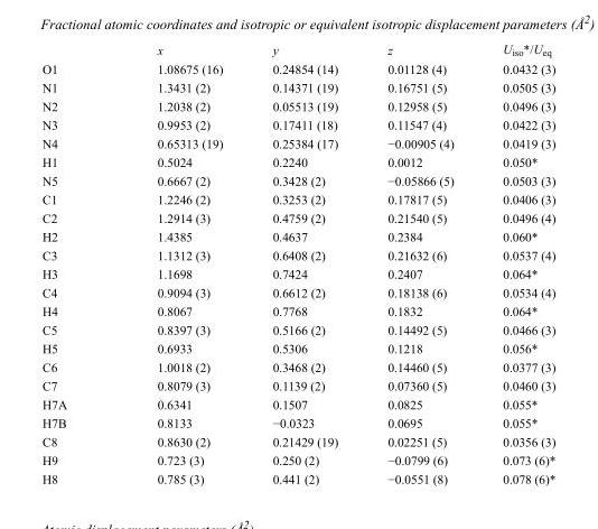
<table><thead><tr><td></td><td>x</td><td>y</td><td>z</td><td>U<sub>iso</sub>*/U<sub>eq</sub></td></tr></thead><tbody><tr><td>O1</td><td>1.08675 (16)</td><td>0.24854 (14)</td><td>0.01128 (4)</td><td>0.0432 (3)</td></tr><tr><td>N1</td><td>1.3431 (2)</td><td>0.14371 (19)</td><td>0.16751 (5)</td><td>0.0505 (3)</td></tr><tr><td>N2</td><td>1.2038 (2)</td><td>0.05513 (19)</td><td>0.12958 (5)</td><td>0.0496 (3)</td></tr><tr><td>N3</td><td>0.9953 (2)</td><td>0.17411 (18)</td><td>0.11547 (4)</td><td>0.0422 (3)</td></tr><tr><td>N4</td><td>0.65313 (19)</td><td>0.25384 (17)</td><td>−0.00905 (4)</td><td>0.0419 (3)</td></tr><tr><td>H1</td><td>0.5024</td><td>0.2240</td><td>0.0012</td><td>0.050*</td></tr><tr><td>N5</td><td>0.6667 (2)</td><td>0.3428 (2)</td><td>−0.05866 (5)</td><td>0.0503 (3)</td></tr><tr><td>C1</td><td>1.2246 (2)</td><td>0.3253 (2)</td><td>0.17817 (5)</td><td>0.0406 (3)</td></tr><tr><td>C2</td><td>1.2914 (3)</td><td>0.4759 (2)</td><td>0.21540 (5)</td><td>0.0496 (4)</td></tr><tr><td>H2</td><td>1.4385</td><td>0.4637</td><td>0.2384</td><td>0.060*</td></tr><tr><td>C3</td><td>1.1312 (3)</td><td>0.6408 (2)</td><td>0.21632 (6)</td><td>0.0537 (4)</td></tr><tr><td>H3</td><td>1.1698</td><td>0.7424</td><td>0.2407</td><td>0.064*</td></tr><tr><td>C4</td><td>0.9094 (3)</td><td>0.6612 (2)</td><td>0.18138 (6)</td><td>0.0534 (4)</td></tr><tr><td>H4</td><td>0.8067</td><td>0.7768</td><td>0.1832</td><td>0.064*</td></tr><tr><td>C5</td><td>0.8397 (3)</td><td>0.5166 (2)</td><td>0.14492 (5)</td><td>0.0466 (3)</td></tr><tr><td>H5</td><td>0.6933</td><td>0.5306</td><td>0.1218</td><td>0.056*</td></tr><tr><td>C6</td><td>1.0018 (2)</td><td>0.3468 (2)</td><td>0.14460 (5)</td><td>0.0377 (3)</td></tr><tr><td>C7</td><td>0.8079 (3)</td><td>0.1139 (2)</td><td>0.07360 (5)</td><td>0.0460 (3)</td></tr><tr><td>H7A</td><td>0.6341</td><td>0.1507</td><td>0.0825</td><td>0.055*</td></tr><tr><td>H7B</td><td>0.8133</td><td>−0.0323</td><td>0.0695</td><td>0.055*</td></tr><tr><td>C8</td><td>0.8630 (2)</td><td>0.21429 (19)</td><td>0.02251 (5)</td><td>0.0356 (3)</td></tr><tr><td>H9</td><td>0.723 (3)</td><td>0.250 (2)</td><td>−0.0799 (6)</td><td>0.073 (6)*</td></tr><tr><td>H8</td><td>0.785 (3)</td><td>0.441 (2)</td><td>−0.0551 (8)</td><td>0.078 (6)*</td></tr></tbody></table>